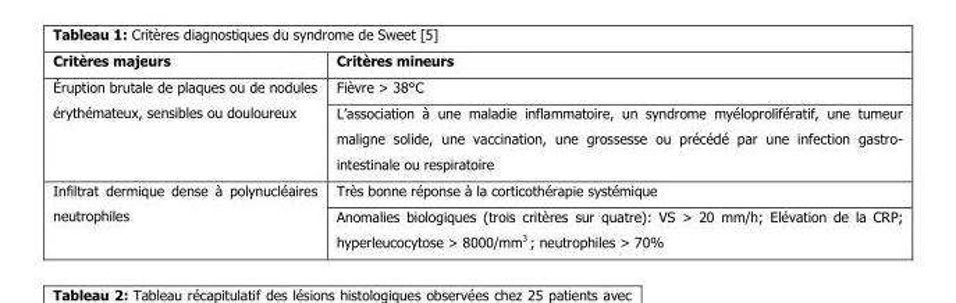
<table><thead><tr><td>Critères majeurs</td><td>Critères mineurs</td></tr></thead><tbody><tr><td rowspan="2">Éruption brutale de plaques ou de nodules érythémateux, sensibles ou douloureux</td><td>Fièvre &gt; 38°C</td></tr><tr><td>L’association à une maladie inflammatoire, un syndrome myéloprolifératif, une tumeur maligne solide, une vaccination, une grossesse ou précédé par une infection gastro- intestinale ou respiratoire</td></tr><tr><td rowspan="2">Infiltrat dermique dense à polynucléaires neutrophiles</td><td>Très bonne réponse à la corticothérapie systémique</td></tr><tr><td>Anomalies biologiques (trois critères sur quatre): VS &gt; 20 mm/h; Elévation de la CRP; hyperleucocytose &gt; 8000/mm<sup>3</sup> ; neutrophiles &gt; 70%</td></tr></tbody></table>